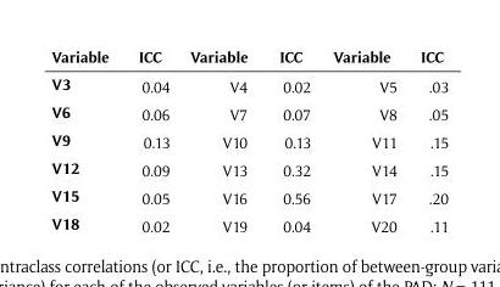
<table><thead><tr><td>Variable</td><td>ICC</td><td>Variable</td><td>ICC</td><td>Variable</td><td>ICC</td></tr></thead><tbody><tr><td>V3</td><td>0.04</td><td>V4</td><td>0.02</td><td>V5</td><td>.03</td></tr><tr><td>V6</td><td>0.06</td><td>V7</td><td>0.07</td><td>V8</td><td>.05</td></tr><tr><td>V9</td><td>0.13</td><td>V10</td><td>0.13</td><td>V11</td><td>.15</td></tr><tr><td>V12</td><td>0.09</td><td>V13</td><td>0.32</td><td>V14</td><td>.15</td></tr><tr><td>V15</td><td>0.05</td><td>V16</td><td>0.56</td><td>V17</td><td>.20</td></tr><tr><td>V18</td><td>0.02</td><td>V19</td><td>0.04</td><td>V20</td><td>.11</td></tr></tbody></table>